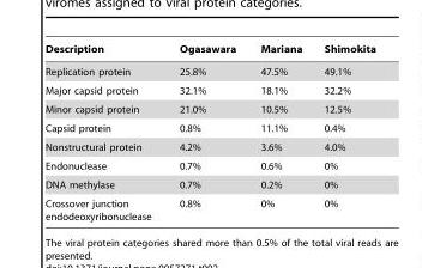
<table><thead><tr><td>Description</td><td>Ogasawara</td><td>Mariana</td><td>Shimokita</td></tr></thead><tbody><tr><td>Replication protein</td><td>25.8%</td><td>47.5%</td><td>49.1%</td></tr><tr><td>Major capsid protein</td><td>32.1%</td><td>18.1%</td><td>32.2%</td></tr><tr><td>Minor capsid protein</td><td>21.0%</td><td>10.5%</td><td>12.5%</td></tr><tr><td>Capsid protein</td><td>0.8%</td><td>11.1%</td><td>0.4%</td></tr><tr><td>Nonstructural protein</td><td>4.2%</td><td>3.6%</td><td>4.0%</td></tr><tr><td>Endonuclease</td><td>0.7%</td><td>0.6%</td><td>0%</td></tr><tr><td>DNA methylase</td><td>0.7%</td><td>0.2%</td><td>0%</td></tr><tr><td>Crossover junction endodeoxyribonuclease</td><td>0.8%</td><td>0%</td><td>0%</td></tr></tbody></table>